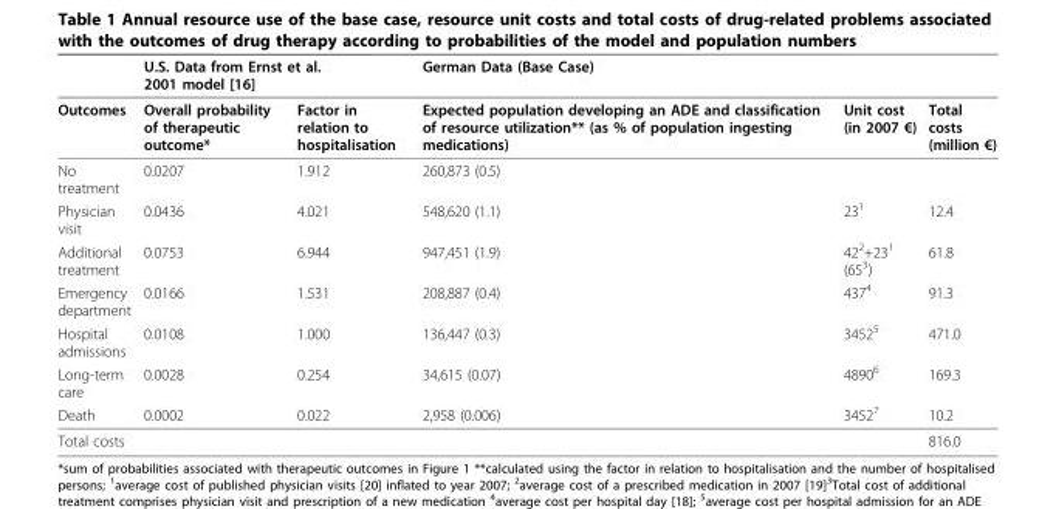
<table><thead><tr><td rowspan="2">Outcomes</td><td colspan="2">U.S. Data from Ernst et al. 2001 model [16]</td><td colspan="3">German Data (Base Case)</td></tr><tr><td>Overall probability of therapeutic outcome*</td><td>Factor in relation to hospitalisation</td><td>Expected population developing an ADE and classification of resource utilization** (as % of population ingesting medications)</td><td>Unit cost (in 2007 €)</td><td>Total costs (million €)</td></tr></thead><tbody><tr><td>No treatment</td><td>0.0207</td><td>1.912</td><td>260,873 (0.5)</td><td></td><td></td></tr><tr><td>Physician visit</td><td>0.0436</td><td>4.021</td><td>548,620 (1.1)</td><td>23<sup>1</sup></td><td>12.4</td></tr><tr><td>Additional treatment</td><td>0.0753</td><td>6.944</td><td>947,451 (1.9)</td><td>42<sup>2</sup>+23<sup>1</sup> (65<sup>3</sup>)</td><td>61.8</td></tr><tr><td>Emergency department</td><td>0.0166</td><td>1.531</td><td>208,887 (0.4)</td><td>437<sup>4</sup></td><td>91.3</td></tr><tr><td>Hospital admissions</td><td>0.0108</td><td>1.000</td><td>136,447 (0.3)</td><td>3452<sup>5</sup></td><td>471.0</td></tr><tr><td>Long-term care</td><td>0.0028</td><td>0.254</td><td>34,615 (0.07)</td><td>4890<sup>6</sup></td><td>169.3</td></tr><tr><td>Death</td><td>0.0002</td><td>0.022</td><td>2,958 (0.006)</td><td>3452<sup>7</sup></td><td>10.2</td></tr><tr><td>Total costs</td><td></td><td></td><td></td><td></td><td>816.0</td></tr></tbody></table>